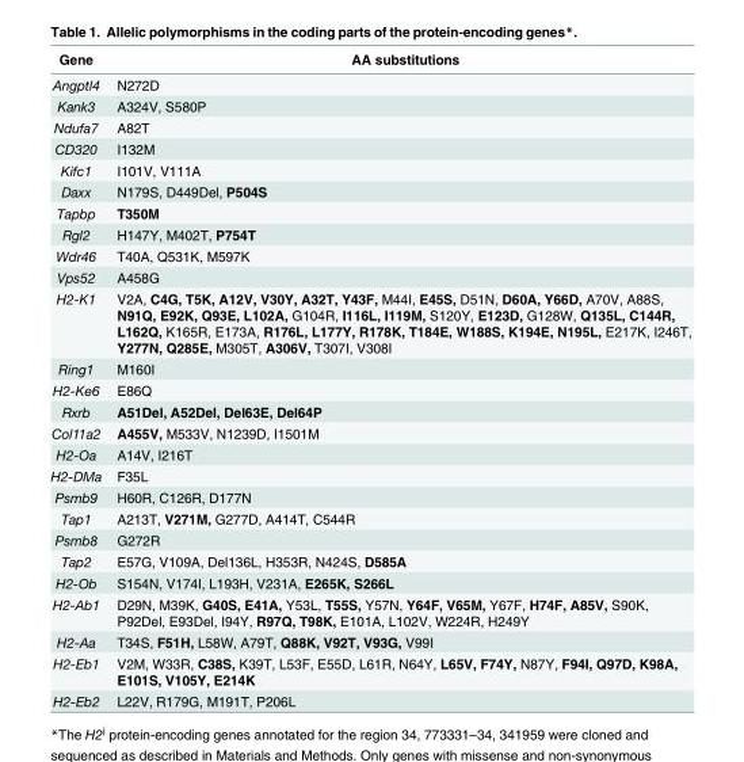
<table><thead><tr><td>Gene</td><td>AA substitutions</td></tr></thead><tbody><tr><td>Angptl4</td><td>N272D</td></tr><tr><td>Kank3</td><td>A324V, S580P</td></tr><tr><td>Ndufa7</td><td>A82T</td></tr><tr><td>CD320</td><td>I132M</td></tr><tr><td>Kifc1</td><td>I101V, V111A</td></tr><tr><td>Daxx</td><td>N179S, D449Del, P504S</td></tr><tr><td>Tapbp</td><td>T350M</td></tr><tr><td>Rgl2</td><td>H147Y, M402T, P754T</td></tr><tr><td>Wdr46</td><td>T40A, Q531K, M597K</td></tr><tr><td>Vps52</td><td>A458G</td></tr><tr><td>H2-K1</td><td>V2A, C4G, T5K, A12V, V30Y, A32T, Y43F, M44I, E45S, D51N, D60A, Y66D, A70V, A88S, N91Q, E92K, Q93E, L102A, G104R, I116L, I119M, S120Y, E123D, G128W, Q135L, C144R, L162Q, K165R, E173A, R176L, L177Y, R178K, T184E, W188S, K194E, N195L, E217K, I246T, Y277N, Q285E, M305T, A306V, T307I, V308I</td></tr><tr><td>Ring1</td><td>M160I</td></tr><tr><td>H2-Ke6</td><td>E86Q</td></tr><tr><td>Rxrb</td><td>A51Del, A52Del, Del63E, Del64P</td></tr><tr><td>Col11a2</td><td>A455V, M533V, N1239D, I1501M</td></tr><tr><td>H2-Oa</td><td>A14V, I216T</td></tr><tr><td>H2-DMa</td><td>F35L</td></tr><tr><td>Psmb9</td><td>H60R, C126R, D177N</td></tr><tr><td>Tap1</td><td>A213T, V271M, G277D, A414T, C544R</td></tr><tr><td>Psmb8</td><td>G272R</td></tr><tr><td>Tap2</td><td>E57G, V109A, Del136L, H353R, N424S, D585A</td></tr><tr><td>H2-Ob</td><td>S154N, V174I, L193H, V231A, E265K, S266L</td></tr><tr><td>H2-Ab1</td><td>D29N, M39K, G40S, E41A, Y53L, T55S, Y57N, Y64F, V65M, Y67F, H74F, A85V, S90K, P92Del, E93Del, I94Y, R97Q, T98K, E101A, L102V, W224R, H249Y</td></tr><tr><td>H2-Aa</td><td>T34S, F51H, L58W, A79T, Q88K, V92T, V93G, V99I</td></tr><tr><td>H2-Eb1</td><td>V2M, W33R, C38S, K39T, L53F, E55D, L61R, N64Y, L65V, F74Y, N87Y, F94I, Q97D, K98A, E101S, V105Y, E214K</td></tr><tr><td>H2-Eb2</td><td>L22V, R179G, M191T, P206L</td></tr></tbody></table>